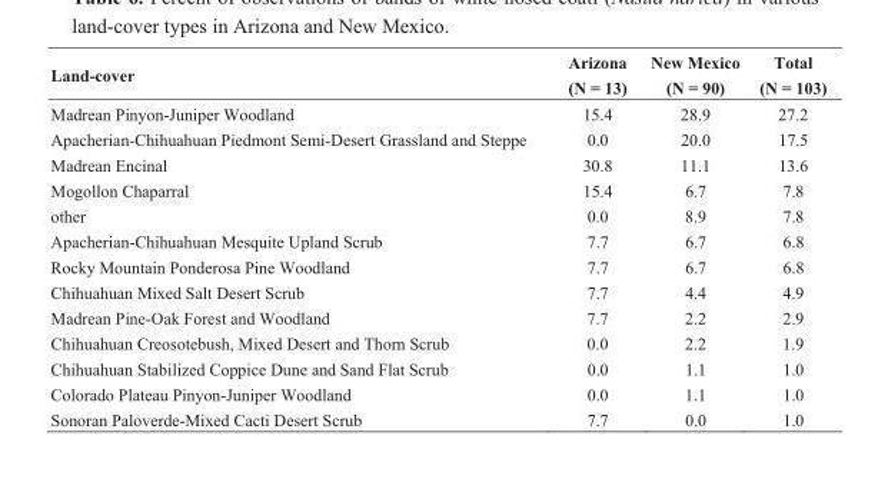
<table><thead><tr><td>Land-cover</td><td>Arizona (N = 13)</td><td>New Mexico (N = 90)</td><td>Total (N = 103)</td></tr></thead><tbody><tr><td>Madrean Pinyon-Juniper Woodland</td><td>15.4</td><td>28.9</td><td>27.2</td></tr><tr><td>Apacherian-Chihuahuan Piedmont Semi-Desert Grassland and Steppe</td><td>0.0</td><td>20.0</td><td>17.5</td></tr><tr><td>Madrean Encinal</td><td>30.8</td><td>11.1</td><td>13.6</td></tr><tr><td>Mogollon Chaparral</td><td>15.4</td><td>6.7</td><td>7.8</td></tr><tr><td>other</td><td>0.0</td><td>8.9</td><td>7.8</td></tr><tr><td>Apacherian-Chihuahuan Mesquite Upland Scrub</td><td>7.7</td><td>6.7</td><td>6.8</td></tr><tr><td>Rocky Mountain Ponderosa Pine Woodland</td><td>7.7</td><td>6.7</td><td>6.8</td></tr><tr><td>Chihuahuan Mixed Salt Desert Scrub</td><td>7.7</td><td>4.4</td><td>4.9</td></tr><tr><td>Madrean Pine-Oak Forest and Woodland</td><td>7.7</td><td>2.2</td><td>2.9</td></tr><tr><td>Chihuahuan Creosotebush, Mixed Desert and Thorn Scrub</td><td>0.0</td><td>2.2</td><td>1.9</td></tr><tr><td>Chihuahuan Stabilized Coppice Dune and Sand Flat Scrub</td><td>0.0</td><td>1.1</td><td>1.0</td></tr><tr><td>Colorado Plateau Pinyon-Juniper Woodland</td><td>0.0</td><td>1.1</td><td>1.0</td></tr><tr><td>Sonoran Paloverde-Mixed Cacti Desert Scrub</td><td>7.7</td><td>0.0</td><td>1.0</td></tr></tbody></table>